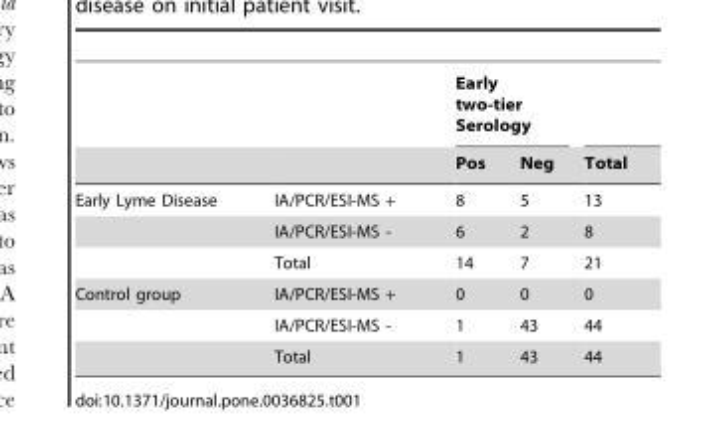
<table><thead><tr><td rowspan="2"></td><td rowspan="2"></td><td colspan="2">Early two-tier Serology</td><td rowspan="2">Total</td></tr><tr><td>Pos</td><td>Neg</td></tr></thead><tbody><tr><td rowspan="3">Early Lyme Disease</td><td>IA/PCR/ESI-MS +</td><td>8</td><td>5</td><td>13</td></tr><tr><td>IA/PCR/ESI-MS -</td><td>6</td><td>2</td><td>8</td></tr><tr><td>Total</td><td>14</td><td>7</td><td>21</td></tr><tr><td rowspan="3">Control group</td><td>IA/PCR/ESI-MS +</td><td>0</td><td>0</td><td>0</td></tr><tr><td>IA/PCR/ESI-MS -</td><td>1</td><td>43</td><td>44</td></tr><tr><td>Total</td><td>1</td><td>43</td><td>44</td></tr></tbody></table>